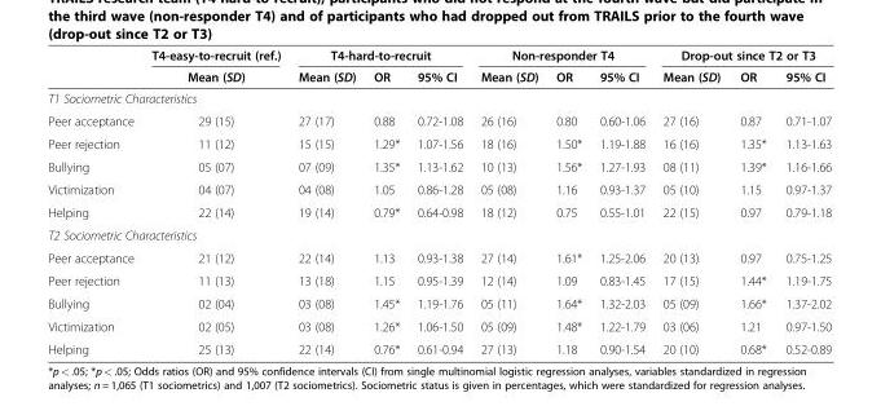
<table><thead><tr><td rowspan="2"></td><td rowspan="2">T4-easy-to-recruit (ref.) Mean (SD)</td><td colspan="3">T4-hard-to-recruit</td><td colspan="3">Non-responder T4</td><td colspan="3">Drop-out since T2 or T3</td></tr><tr><td>Mean (SD)</td><td>OR</td><td>95% CI</td><td>Mean (SD)</td><td>OR</td><td>95% CI</td><td>Mean (SD)</td><td>OR</td><td>95% CI</td></tr></thead><tbody><tr><td colspan="11">T1 Sociometric Characteristics</td></tr><tr><td>Peer acceptance</td><td>29 (15)</td><td>27 (17)</td><td>0.88</td><td>0.72-1.08</td><td>26 (16)</td><td>0.80</td><td>0.60-1.06</td><td>27 (16)</td><td>0.87</td><td>0.71-1.07</td></tr><tr><td>Peer rejection</td><td>11 (12)</td><td>15 (15)</td><td>1.29*</td><td>1.07-1.56</td><td>18 (16)</td><td>1.50*</td><td>1.19-1.88</td><td>16 (16)</td><td>1.35*</td><td>1.13-1.63</td></tr><tr><td>Bullying</td><td>05 (07)</td><td>07 (09)</td><td>1.35*</td><td>1.13-1.62</td><td>10 (13)</td><td>1.56*</td><td>1.27-1.93</td><td>08 (11)</td><td>1.39*</td><td>1.16-1.66</td></tr><tr><td>Victimization</td><td>04 (07)</td><td>04 (08)</td><td>1.05</td><td>0.86-1.28</td><td>05 (08)</td><td>1.16</td><td>0.93-1.37</td><td>05 (10)</td><td>1.15</td><td>0.97-1.37</td></tr><tr><td>Helping</td><td>22 (14)</td><td>19 (14)</td><td>0.79*</td><td>0.64-0.98</td><td>18 (12)</td><td>0.75</td><td>0.55-1.01</td><td>22 (15)</td><td>0.97</td><td>0.79-1.18</td></tr><tr><td colspan="11">T2 Sociometric Characteristics</td></tr><tr><td>Peer acceptance</td><td>21 (12)</td><td>22 (14)</td><td>1.13</td><td>0.93-1.38</td><td>27 (14)</td><td>1.61*</td><td>1.25-2.06</td><td>20 (13)</td><td>0.97</td><td>0.75-1.25</td></tr><tr><td>Peer rejection</td><td>11 (13)</td><td>13 (18)</td><td>1.15</td><td>0.95-1.39</td><td>12 (14)</td><td>1.09</td><td>0.83-1.45</td><td>17 (15)</td><td>1.44*</td><td>1.19-1.75</td></tr><tr><td>Bullying</td><td>02 (04)</td><td>03 (08)</td><td>1.45*</td><td>1.19-1.76</td><td>05 (11)</td><td>1.64*</td><td>1.32-2.03</td><td>05 (09)</td><td>1.66*</td><td>1.37-2.02</td></tr><tr><td>Victimization</td><td>02 (05)</td><td>03 (08)</td><td>1.26*</td><td>1.06-1.50</td><td>05 (09)</td><td>1.48*</td><td>1.22-1.79</td><td>03 (06)</td><td>1.21</td><td>0.97-1.50</td></tr><tr><td>Helping</td><td>25 (13)</td><td>22 (14)</td><td>0.76*</td><td>0.61-0.94</td><td>27 (13)</td><td>1.18</td><td>0.90-1.54</td><td>20 (10)</td><td>0.68*</td><td>0.52-0.89</td></tr></tbody></table>